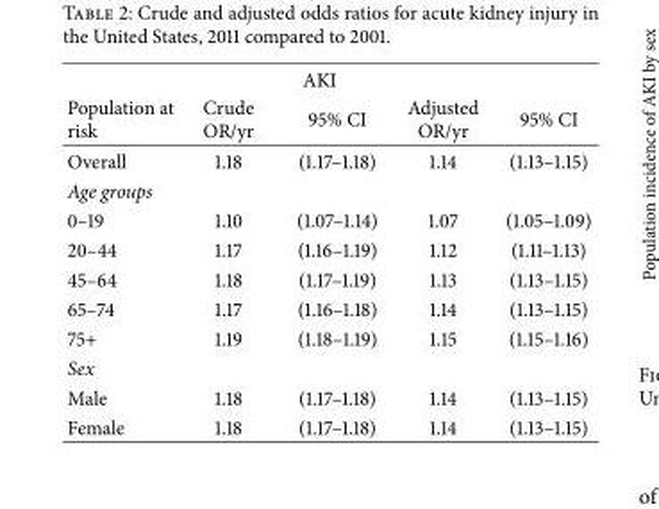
<table><thead><tr><td colspan="5">AKI</td></tr><tr><td>Population at risk</td><td>Crude OR/yr</td><td>95% CI</td><td>Adjusted OR/yr</td><td>95% CI</td></tr></thead><tbody><tr><td>Overall</td><td>1.18</td><td>(1.17–1.18)</td><td>1.14</td><td>(1.13–1.15)</td></tr><tr><td colspan="5">Age groups</td></tr><tr><td>0–19</td><td>1.10</td><td>(1.07–1.14)</td><td>1.07</td><td>(1.05–1.09)</td></tr><tr><td>20–44</td><td>1.17</td><td>(1.16–1.19)</td><td>1.12</td><td>(1.11–1.13)</td></tr><tr><td>45–64</td><td>1.18</td><td>(1.17–1.19)</td><td>1.13</td><td>(1.13–1.15)</td></tr><tr><td>65–74</td><td>1.17</td><td>(1.16–1.18)</td><td>1.14</td><td>(1.13–1.15)</td></tr><tr><td>75+</td><td>1.19</td><td>(1.18–1.19)</td><td>1.15</td><td>(1.15–1.16)</td></tr><tr><td colspan="5">Sex</td></tr><tr><td>Male</td><td>1.18</td><td>(1.17–1.18)</td><td>1.14</td><td>(1.13–1.15)</td></tr><tr><td>Female</td><td>1.18</td><td>(1.17–1.18)</td><td>1.14</td><td>(1.13–1.15)</td></tr></tbody></table>